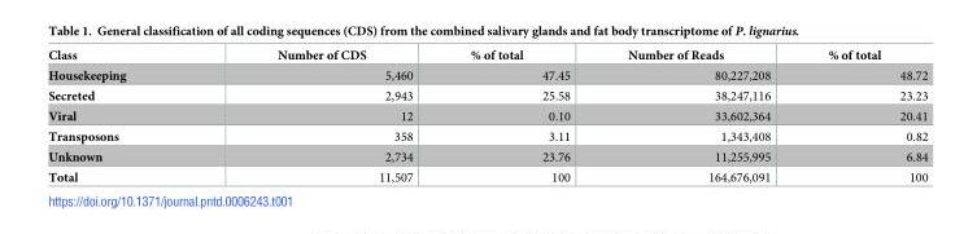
<table><thead><tr><td>Class</td><td>Number of CDS</td><td>% of total</td><td>Number of Reads</td><td>% of total</td></tr></thead><tbody><tr><td>Housekeeping</td><td>5,460</td><td>47.45</td><td>80,227,208</td><td>48.72</td></tr><tr><td>Secreted</td><td>2,943</td><td>25.58</td><td>38,247,116</td><td>23.23</td></tr><tr><td>Viral</td><td>12</td><td>0.10</td><td>33,602,364</td><td>20.41</td></tr><tr><td>Transposons</td><td>358</td><td>3.11</td><td>1,343,408</td><td>0.82</td></tr><tr><td>Unknown</td><td>2,734</td><td>23.76</td><td>11,255,995</td><td>6.84</td></tr><tr><td>Total</td><td>11,507</td><td>100</td><td>164,676,091</td><td>100</td></tr></tbody></table>